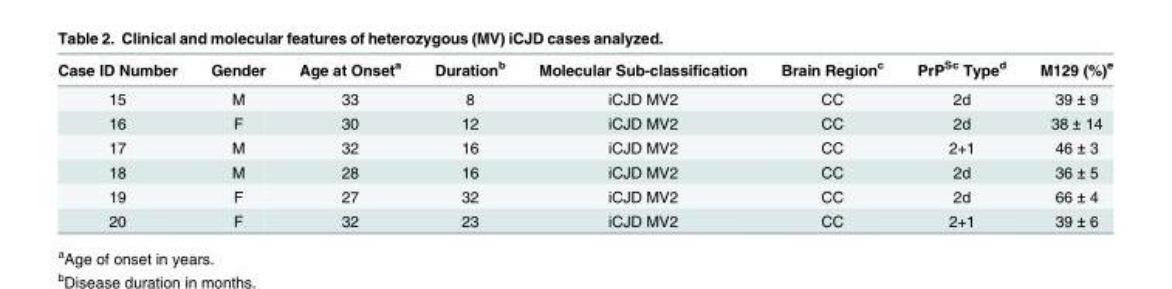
<table><thead><tr><td>Case ID Number</td><td>Gender</td><td>Age at Onset<sup>a</sup></td><td>Duration<sup>b</sup></td><td>Molecular Sub-classification</td><td>Brain Region<sup>c</sup></td><td>PrP<sup>Sc</sup> Type<sup>d</sup></td><td>M129 (%)<sup>e</sup></td></tr></thead><tbody><tr><td>15</td><td>M</td><td>33</td><td>8</td><td>iCJD MV2</td><td>CC</td><td>2d</td><td>39 ± 9</td></tr><tr><td>16</td><td>F</td><td>30</td><td>12</td><td>iCJD MV2</td><td>CC</td><td>2d</td><td>38 ± 14</td></tr><tr><td>17</td><td>M</td><td>32</td><td>16</td><td>iCJD MV2</td><td>CC</td><td>2+1</td><td>46 ± 3</td></tr><tr><td>18</td><td>M</td><td>28</td><td>16</td><td>iCJD MV2</td><td>CC</td><td>2d</td><td>36 ± 5</td></tr><tr><td>19</td><td>F</td><td>27</td><td>32</td><td>iCJD MV2</td><td>CC</td><td>2d</td><td>66 ± 4</td></tr><tr><td>20</td><td>F</td><td>32</td><td>23</td><td>iCJD MV2</td><td>CC</td><td>2+1</td><td>39 ± 6</td></tr></tbody></table>